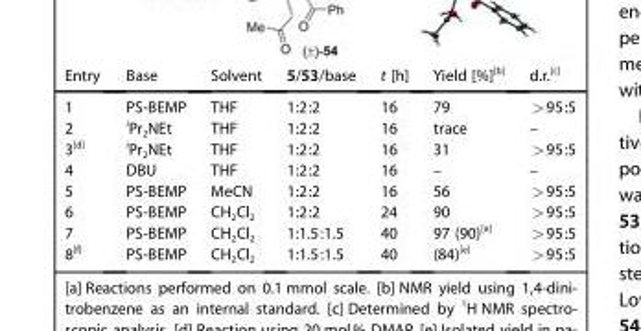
<table><thead><tr><td>Entry</td><td>Base</td><td>Solvent</td><td>5/53/base</td><td>t [h]</td><td>Yield [%]<sup>[b]</sup></td><td>d.r.<sup>[c]</sup></td></tr></thead><tbody><tr><td>1</td><td>PS-BEMP</td><td>THF</td><td>1:2:2</td><td>16</td><td>79</td><td>&gt;95:5</td></tr><tr><td>2</td><td><sup>i</sup>Pr<sub>2</sub>NEt</td><td>THF</td><td>1:2:2</td><td>16</td><td>trace</td><td>–</td></tr><tr><td>3<sup>[d]</sup></td><td><sup>i</sup>Pr<sub>2</sub>NEt</td><td>THF</td><td>1:2:2</td><td>16</td><td>31</td><td>&gt;95:5</td></tr><tr><td>4</td><td>DBU</td><td>THF</td><td>1:2:2</td><td>16</td><td>–</td><td>–</td></tr><tr><td>5</td><td>PS-BEMP</td><td>MeCN</td><td>1:2:2</td><td>16</td><td>56</td><td>&gt;95:5</td></tr><tr><td>6</td><td>PS-BEMP</td><td>CH<sub>2</sub>Cl<sub>2</sub></td><td>1:2:2</td><td>24</td><td>90</td><td>&gt;95:5</td></tr><tr><td>7</td><td>PS-BEMP</td><td>CH<sub>2</sub>Cl<sub>2</sub></td><td>1:1.5:1.5</td><td>40</td><td>97 (90)<sup>[e]</sup></td><td>&gt;95:5</td></tr><tr><td>8<sup>[f]</sup></td><td>PS-BEMP</td><td>CH<sub>2</sub>Cl<sub>2</sub></td><td>1:1.5:1.5</td><td>40</td><td>(84)<sup>[e]</sup></td><td>&gt;95:5</td></tr></tbody></table>